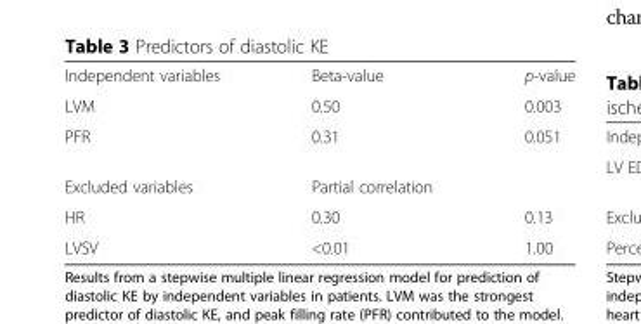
<table><tbody><tr><td>Independent variables</td><td>Beta-value</td><td>p-value</td></tr><tr><td>LVM</td><td>0.50</td><td>0.003</td></tr><tr><td>PFR</td><td>0.31</td><td>0.051</td></tr><tr><td>Excluded variables</td><td>Partial correlation</td><td></td></tr><tr><td>HR</td><td>0.30</td><td>0.13</td></tr><tr><td>LVSV</td><td>&lt;0.01</td><td>1.00</td></tr></tbody></table>